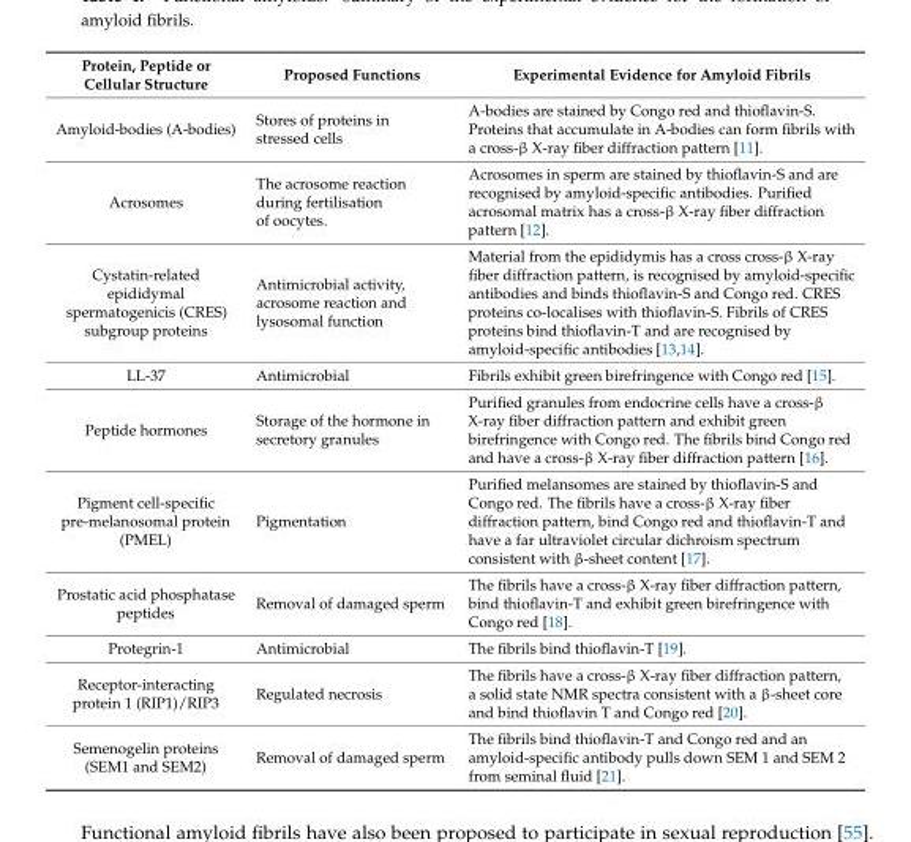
<table><thead><tr><td>Protein, Peptide or Cellular Structure</td><td>Proposed Functions</td><td>Experimental Evidence for Amyloid Fibrils</td></tr></thead><tbody><tr><td>Amyloid-bodies (A-bodies)</td><td>Stores of proteins in stressed cells</td><td>A-bodies are stained by Congo red and thioflavin-S. Proteins that accumulate in A-bodies can form fibrils with a cross-β X-ray fiber diffraction pattern [11].</td></tr><tr><td>Acrosomes</td><td>The acrosome reaction during fertilisation of oocytes.</td><td>Acrosomes in sperm are stained by thioflavin-S and are recognised by amyloid-specific antibodies. Purified acrosomal matrix has a cross-β X-ray fiber diffraction pattern [12].</td></tr><tr><td>Cystatin-related epididymal spermatogenicis (CRES) subgroup proteins</td><td>Antimicrobial activity, acrosome reaction and lysosomal function</td><td>Material from the epididymis has a cross cross-β X-ray fiber diffraction pattern, is recognised by amyloid-specific antibodies and binds thioflavin-S and Congo red. CRES proteins co-localises with thioflavin-S. Fibrils of CRES proteins bind thioflavin-T and are recognised by amyloid-specific antibodies [13,14].</td></tr><tr><td>LL-37</td><td>Antimicrobial</td><td>Fibrils exhibit green birefringence with Congo red [15].</td></tr><tr><td>Peptide hormones</td><td>Storage of the hormone in secretory granules</td><td>Purified granules from endocrine cells have a cross-β X-ray fiber diffraction pattern and exhibit green birefringence with Congo red. The fibrils bind Congo red and have a cross-β X-ray fiber diffraction pattern [16].</td></tr><tr><td>Pigment cell-specific pre-melanosomal protein (PMEL)</td><td>Pigmentation</td><td>Purified melansomes are stained by thioflavin-S and Congo red. The fibrils have a cross-β X-ray fiber diffraction pattern, bind Congo red and thioflavin-T and have a far ultraviolet circular dichroism spectrum consistent with β-sheet content [17].</td></tr><tr><td>Prostatic acid phosphatase peptides</td><td>Removal of damaged sperm</td><td>The fibrils have a cross-β X-ray fiber diffraction pattern, bind thioflavin-T and exhibit green birefringence with Congo red [18].</td></tr><tr><td>Protegrin-1</td><td>Antimicrobial</td><td>The fibrils bind thioflavin-T [19].</td></tr><tr><td>Receptor-interacting protein 1 (RIP1)/RIP3</td><td>Regulated necrosis</td><td>The fibrils have a cross-β X-ray fiber diffraction pattern, a solid state NMR spectra consistent with a β-sheet core and bind thioflavin T and Congo red [20].</td></tr><tr><td>Semenogelin proteins (SEM1 and SEM2)</td><td>Removal of damaged sperm</td><td>The fibrils bind thioflavin-T and Congo red and an amyloid-specific antibody pulls down SEM 1 and SEM 2 from seminal fluid [21].</td></tr></tbody></table>